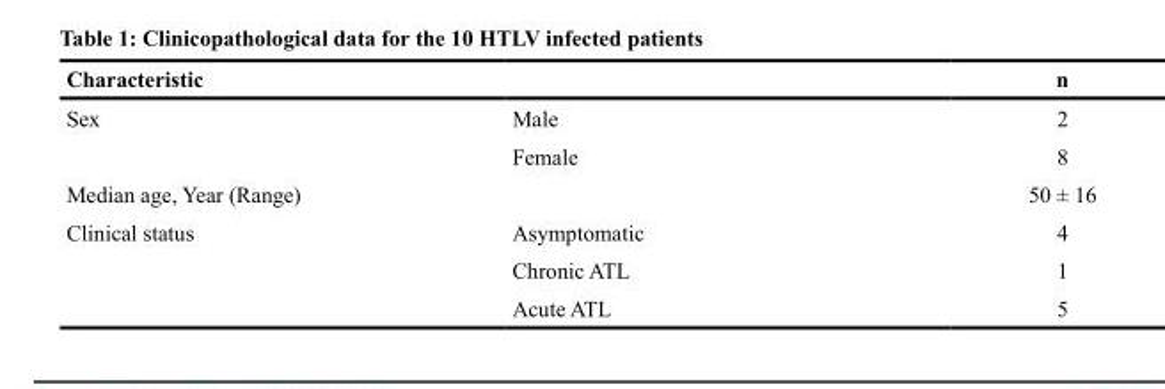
<table><thead><tr><td>Characteristic</td><td></td><td>n</td></tr></thead><tbody><tr><td rowspan="2">Sex</td><td>Male</td><td>2</td></tr><tr><td>Female</td><td>8</td></tr><tr><td>Median age, Year (Range)</td><td></td><td>50 ± 16</td></tr><tr><td rowspan="3">Clinical status</td><td>Asymptomatic</td><td>4</td></tr><tr><td>Chronic ATL</td><td>1</td></tr><tr><td>Acute ATL</td><td>5</td></tr></tbody></table>